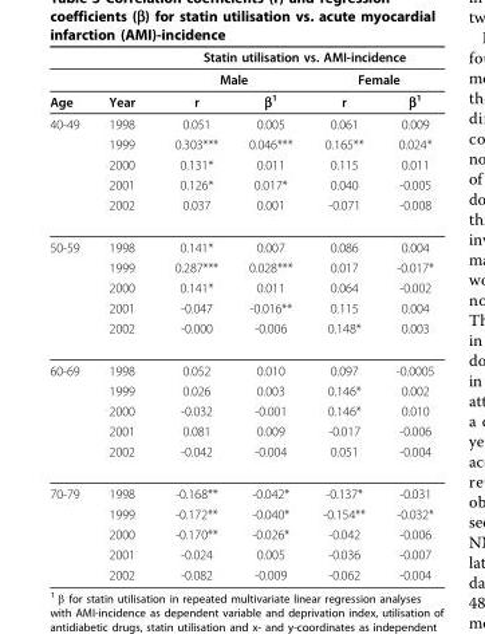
<table><thead><tr><td rowspan="3">Age</td><td rowspan="3">Year</td><td colspan="4">Statin utilisation vs. AMI-incidence</td></tr><tr><td colspan="2">Male</td><td colspan="2">Female</td></tr><tr><td>r</td><td>β<sup>1</sup></td><td>r</td><td>β<sup>1</sup></td></tr></thead><tbody><tr><td rowspan="5">40-49</td><td>1998</td><td>0.051</td><td>0.005</td><td>0.061</td><td>0.009</td></tr><tr><td>1999</td><td>0.303***</td><td>0.046***</td><td>0.165**</td><td>0.024*</td></tr><tr><td>2000</td><td>0.131*</td><td>0.011</td><td>0.115</td><td>0.011</td></tr><tr><td>2001</td><td>0.126*</td><td>0.017*</td><td>0.040</td><td>-0.005</td></tr><tr><td>2002</td><td>0.037</td><td>0.001</td><td>-0.071</td><td>-0.008</td></tr><tr><td rowspan="5">50-59</td><td>1998</td><td>0.141*</td><td>0.007</td><td>0.086</td><td>0.004</td></tr><tr><td>1999</td><td>0.287***</td><td>0.028***</td><td>0.017</td><td>-0.017*</td></tr><tr><td>2000</td><td>0.141*</td><td>0.011</td><td>0.064</td><td>-0.002</td></tr><tr><td>2001</td><td>-0.047</td><td>-0.016**</td><td>0.115</td><td>0.004</td></tr><tr><td>2002</td><td>-0.000</td><td>-0.006</td><td>0.148*</td><td>0.003</td></tr><tr><td rowspan="5">60-69</td><td>1998</td><td>0.052</td><td>0.010</td><td>0.097</td><td>-0.0005</td></tr><tr><td>1999</td><td>0.026</td><td>0.003</td><td>0.146*</td><td>0.002</td></tr><tr><td>2000</td><td>-0.032</td><td>-0.001</td><td>0.146*</td><td>0.010</td></tr><tr><td>2001</td><td>0.081</td><td>0.009</td><td>-0.017</td><td>-0.006</td></tr><tr><td>2002</td><td>-0.042</td><td>-0.004</td><td>0.051</td><td>-0.004</td></tr><tr><td rowspan="5">70-79</td><td>1998</td><td>-0.168**</td><td>-0.042*</td><td>-0.137*</td><td>-0.031</td></tr><tr><td>1999</td><td>-0.172**</td><td>-0.040*</td><td>-0.154**</td><td>-0.032*</td></tr><tr><td>2000</td><td>-0.170**</td><td>-0.026*</td><td>-0.042</td><td>-0.006</td></tr><tr><td>2001</td><td>-0.024</td><td>0.005</td><td>-0.036</td><td>-0.007</td></tr><tr><td>2002</td><td>-0.082</td><td>-0.009</td><td>-0.062</td><td>-0.004</td></tr></tbody></table>